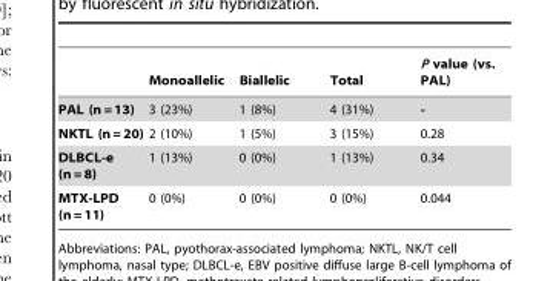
<table><thead><tr><td></td><td>Monoallelic</td><td>Biallelic</td><td>Total</td><td>P value (vs. PAL)</td></tr></thead><tbody><tr><td>PAL (n = 13)</td><td>3 (23%)</td><td>1 (8%)</td><td>4 (31%)</td><td>-</td></tr><tr><td>NKTL (n = 20)</td><td>2 (10%)</td><td>1 (5%)</td><td>3 (15%)</td><td>0.28</td></tr><tr><td>DLBCL-e (n = 8)</td><td>1 (13%)</td><td>0 (0%)</td><td>1 (13%)</td><td>0.34</td></tr><tr><td>MTX-LPD (n = 11)</td><td>0 (0%)</td><td>0 (0%)</td><td>0 (0%)</td><td>0.044</td></tr></tbody></table>